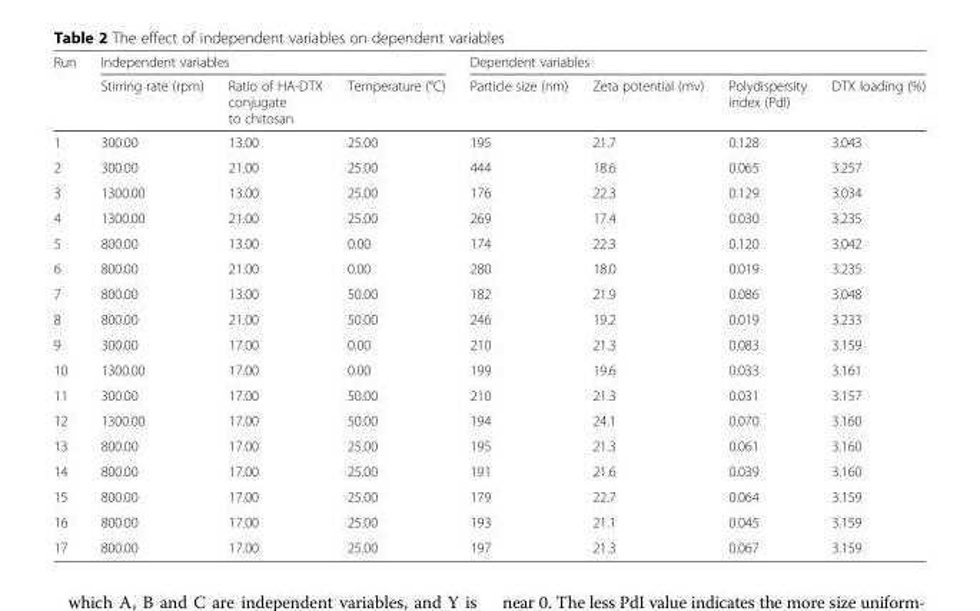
<table><thead><tr><td rowspan="2">Run</td><td colspan="3">Independent variables</td><td colspan="4">Dependent variables</td></tr><tr><td>Stirring rate (rpm)</td><td>Ratio of HA-DTX conjugate to chitosan</td><td>Temperature (°C)</td><td>Particle size (nm)</td><td>Zeta potential (mv)</td><td>Polydispersity index (PdI)</td><td>DTX loading (%)</td></tr></thead><tbody><tr><td>1</td><td>300.00</td><td>13.00</td><td>25.00</td><td>195</td><td>21.7</td><td>0.128</td><td>3.043</td></tr><tr><td>2</td><td>300.00</td><td>21.00</td><td>25.00</td><td>444</td><td>18.6</td><td>0.065</td><td>3.257</td></tr><tr><td>3</td><td>1300.00</td><td>13.00</td><td>25.00</td><td>176</td><td>22.3</td><td>0.129</td><td>3.034</td></tr><tr><td>4</td><td>1300.00</td><td>21.00</td><td>25.00</td><td>269</td><td>17.4</td><td>0.030</td><td>3.235</td></tr><tr><td>5</td><td>800.00</td><td>13.00</td><td>0.00</td><td>174</td><td>22.3</td><td>0.120</td><td>3.042</td></tr><tr><td>6</td><td>800.00</td><td>21.00</td><td>0.00</td><td>280</td><td>18.0</td><td>0.019</td><td>3.235</td></tr><tr><td>7</td><td>800.00</td><td>13.00</td><td>50.00</td><td>182</td><td>21.9</td><td>0.086</td><td>3.048</td></tr><tr><td>8</td><td>800.00</td><td>21.00</td><td>50.00</td><td>246</td><td>19.2</td><td>0.019</td><td>3.233</td></tr><tr><td>9</td><td>300.00</td><td>17.00</td><td>0.00</td><td>210</td><td>21.3</td><td>0.083</td><td>3.159</td></tr><tr><td>10</td><td>1300.00</td><td>17.00</td><td>0.00</td><td>199</td><td>19.6</td><td>0.033</td><td>3.161</td></tr><tr><td>11</td><td>300.00</td><td>17.00</td><td>50.00</td><td>210</td><td>21.3</td><td>0.031</td><td>3.157</td></tr><tr><td>12</td><td>1300.00</td><td>17.00</td><td>50.00</td><td>194</td><td>24.1</td><td>0.070</td><td>3.160</td></tr><tr><td>13</td><td>800.00</td><td>17.00</td><td>25.00</td><td>195</td><td>21.3</td><td>0.061</td><td>3.160</td></tr><tr><td>14</td><td>800.00</td><td>17.00</td><td>25.00</td><td>191</td><td>21.6</td><td>0.039</td><td>3.160</td></tr><tr><td>15</td><td>800.00</td><td>17.00</td><td>25.00</td><td>179</td><td>22.7</td><td>0.064</td><td>3.159</td></tr><tr><td>16</td><td>800.00</td><td>17.00</td><td>25.00</td><td>193</td><td>21.1</td><td>0.045</td><td>3.159</td></tr><tr><td>17</td><td>800.00</td><td>17.00</td><td>25.00</td><td>197</td><td>21.3</td><td>0.067</td><td>3.159</td></tr></tbody></table>